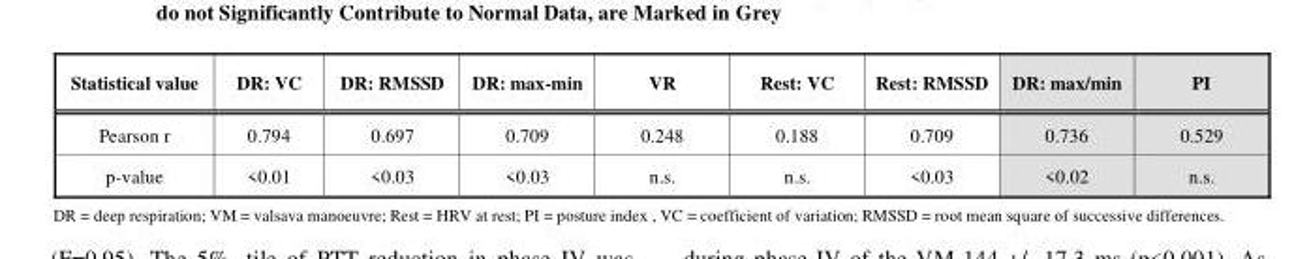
<table><thead><tr><td>Statistical value</td><td>DR: VC</td><td>DR: RMSSD</td><td>DR: max-min</td><td>VR</td><td>Rest: VC</td><td>Rest: RMSSD</td><td>DR: max/min</td><td>PI</td></tr></thead><tbody><tr><td>Pearson r</td><td>0.794</td><td>0.697</td><td>0.709</td><td>0.248</td><td>0.188</td><td>0.709</td><td>0.736</td><td>0.529</td></tr><tr><td>p-value</td><td>&lt;0.01</td><td>&lt;0.03</td><td>&lt;0.03</td><td>n.s.</td><td>n.s.</td><td>&lt;0.03</td><td>&lt;0.02</td><td>n.s.</td></tr></tbody></table>